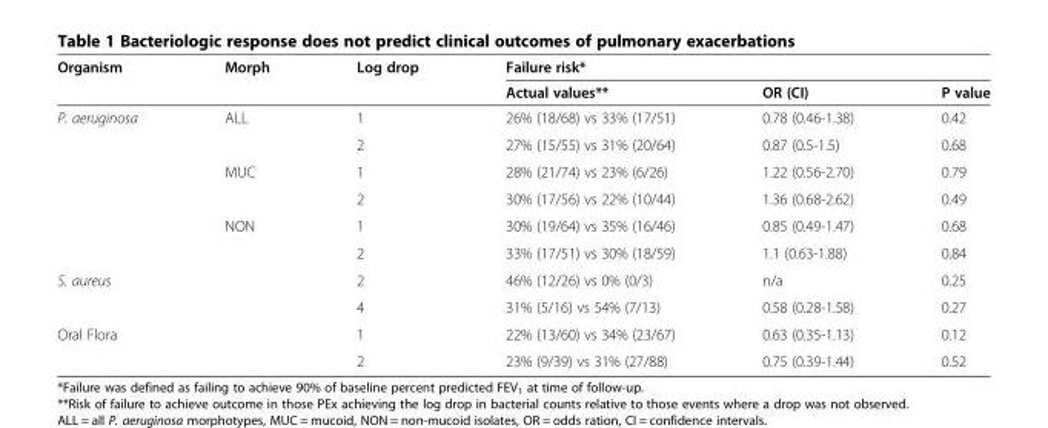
<table><thead><tr><td rowspan="2">Organism</td><td rowspan="2">Morph</td><td rowspan="2">Log drop</td><td colspan="3">Failure risk*</td></tr><tr><td>Actual values**</td><td>OR (CI)</td><td>P value</td></tr></thead><tbody><tr><td rowspan="6">P. aeruginosa</td><td rowspan="2">ALL</td><td>1</td><td>26% (18/68) vs 33% (17/51)</td><td>0.78 (0.46-1.38)</td><td>0.42</td></tr><tr><td>2</td><td>27% (15/55) vs 31% (20/64)</td><td>0.87 (0.5-1.5)</td><td>0.68</td></tr><tr><td rowspan="2">MUC</td><td>1</td><td>28% (21/74) vs 23% (6/26)</td><td>1.22 (0.56-2.70)</td><td>0.79</td></tr><tr><td>2</td><td>30% (17/56) vs 22% (10/44)</td><td>1.36 (0.68-2.62)</td><td>0.49</td></tr><tr><td rowspan="2">NON</td><td>1</td><td>30% (19/64) vs 35% (16/46)</td><td>0.85 (0.49-1.47)</td><td>0.68</td></tr><tr><td>2</td><td>33% (17/51) vs 30% (18/59)</td><td>1.1 (0.63-1.88)</td><td>0.84</td></tr><tr><td rowspan="2" colspan="2">S. aureus</td><td>2</td><td>46% (12/26) vs 0% (0/3)</td><td>n/a</td><td>0.25</td></tr><tr><td>4</td><td>31% (5/16) vs 54% (7/13)</td><td>0.58 (0.28-1.58)</td><td>0.27</td></tr><tr><td rowspan="2" colspan="2">Oral Flora</td><td>1</td><td>22% (13/60) vs 34% (23/67)</td><td>0.63 (0.35-1.13)</td><td>0.12</td></tr><tr><td>2</td><td>23% (9/39) vs 31% (27/88)</td><td>0.75 (0.39-1.44)</td><td>0.52</td></tr></tbody></table>